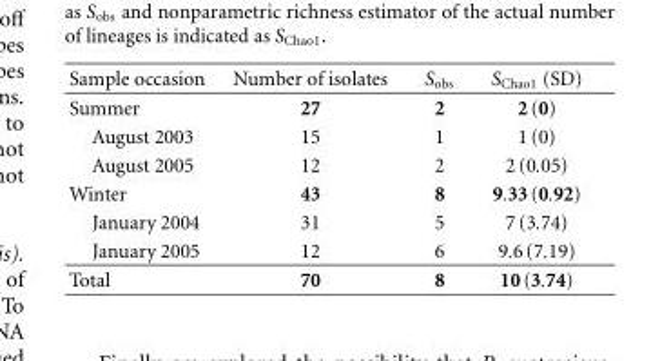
<table><thead><tr><td>Sample occasion</td><td>Number of isolates</td><td>S<sub>obs</sub></td><td>S<sub>Chao1</sub> (SD)</td></tr></thead><tbody><tr><td>Summer</td><td>27</td><td>2</td><td>2(0)</td></tr><tr><td>August 2003</td><td>15</td><td>1</td><td>1(0)</td></tr><tr><td>August 2005</td><td>12</td><td>2</td><td>2(0.05)</td></tr><tr><td>Winter</td><td>43</td><td>8</td><td>9.33 (0.92)</td></tr><tr><td>January 2004</td><td>31</td><td>5</td><td>7(3.74)</td></tr><tr><td>January 2005</td><td>12</td><td>6</td><td>9.6(7.19)</td></tr><tr><td>Total</td><td>70</td><td>8</td><td>10 (3.74)</td></tr></tbody></table>